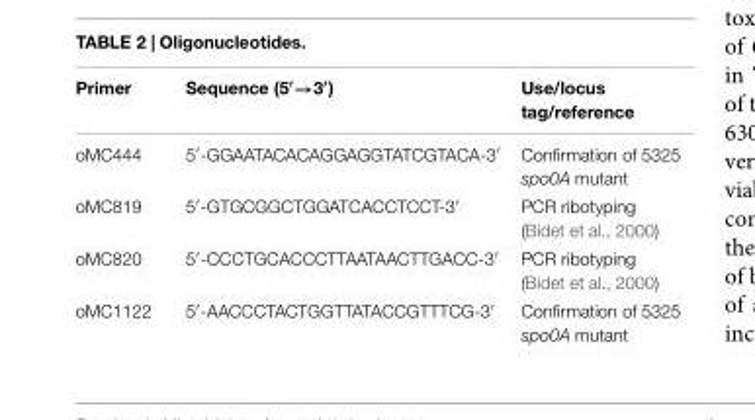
<table><thead><tr><td>Primer</td><td>Sequence (5′→3′)</td><td>Use/locus tag/reference</td></tr></thead><tbody><tr><td>oMC444</td><td>5′-GGAATACACAGGAGGTATCGTACA-3′</td><td>Confirmation of 5325 spo0A mutant</td></tr><tr><td>oMC819</td><td>5′-GTGCGGCTGGATCACCTCCT-3′</td><td>PCR ribotyping (Bidet et al., 2000)</td></tr><tr><td>oMC820</td><td>5′-CCCTGCACCCTTAATAACTTGACC-3′</td><td>PCR ribotyping (Bidet et al., 2000)</td></tr><tr><td>oMC1122</td><td>5′-AACCCTACTGGTTATACCGTTTCG-3′</td><td>Confirmation of 5325 spo0A mutant</td></tr></tbody></table>